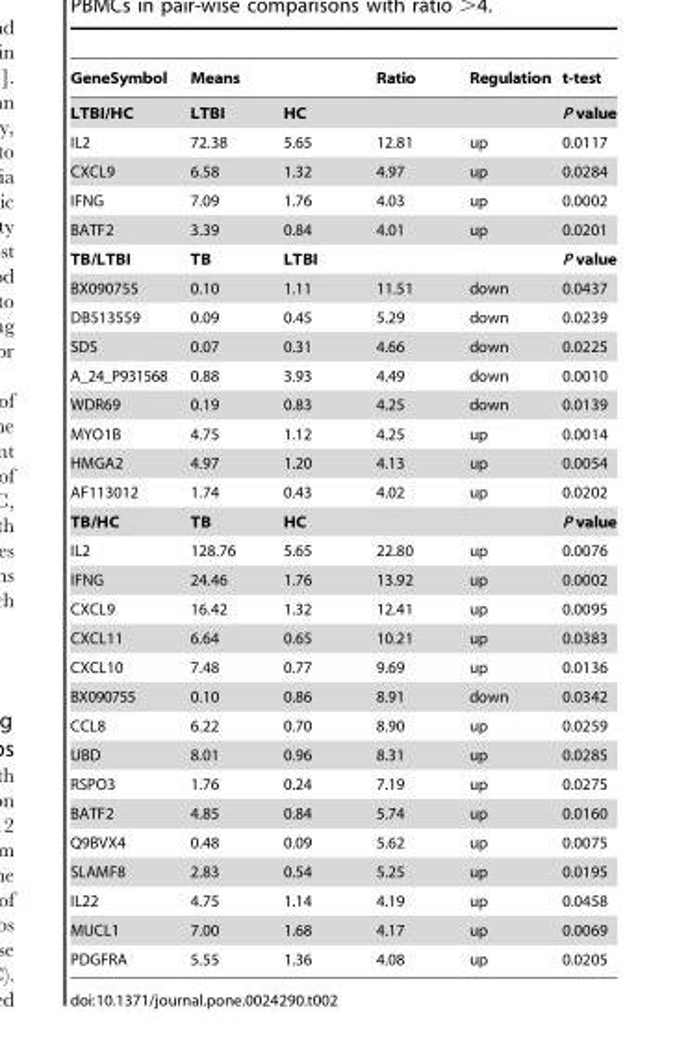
<table><thead><tr><td>GeneSymbol</td><td>Means</td><td></td><td>Ratio</td><td>Regulation</td><td>t-test</td></tr></thead><tbody><tr><td>LTBI/HC</td><td>LTBI</td><td>HC</td><td></td><td></td><td>P value</td></tr><tr><td>IL2</td><td>72.38</td><td>5.65</td><td>12.81</td><td>up</td><td>0.0117</td></tr><tr><td>CXCL9</td><td>6.58</td><td>1.32</td><td>4.97</td><td>up</td><td>0.0284</td></tr><tr><td>IFNG</td><td>7.09</td><td>1.76</td><td>4.03</td><td>up</td><td>0.0002</td></tr><tr><td>BATF2</td><td>3.39</td><td>0.84</td><td>4.01</td><td>up</td><td>0.0201</td></tr><tr><td>TB/LTBI</td><td>TB</td><td>LTBI</td><td></td><td></td><td>P value</td></tr><tr><td>BX090755</td><td>0.10</td><td>1.11</td><td>11.51</td><td>down</td><td>0.0437</td></tr><tr><td>DB513559</td><td>0.09</td><td>0.45</td><td>5.29</td><td>down</td><td>0.0239</td></tr><tr><td>SDS</td><td>0.07</td><td>0.31</td><td>4.66</td><td>down</td><td>0.0225</td></tr><tr><td>A_24_P931568</td><td>0.88</td><td>3.93</td><td>4.49</td><td>down</td><td>0.0010</td></tr><tr><td>WDR69</td><td>0.19</td><td>0.83</td><td>4.25</td><td>down</td><td>0.0139</td></tr><tr><td>MYO1B</td><td>4.75</td><td>1.12</td><td>4.25</td><td>up</td><td>0.0014</td></tr><tr><td>HMGA2</td><td>4.97</td><td>1.20</td><td>4.13</td><td>up</td><td>0.0054</td></tr><tr><td>AF113012</td><td>1.74</td><td>0.43</td><td>4.02</td><td>up</td><td>0.0202</td></tr><tr><td>TB/HC</td><td>TB</td><td>HC</td><td></td><td></td><td>P value</td></tr><tr><td>IL2</td><td>128.76</td><td>5.65</td><td>22.80</td><td>up</td><td>0.0076</td></tr><tr><td>IFNG</td><td>24.46</td><td>1.76</td><td>13.92</td><td>up</td><td>0.0002</td></tr><tr><td>CXCL9</td><td>16.42</td><td>1.32</td><td>12.41</td><td>up</td><td>0.0095</td></tr><tr><td>CXCL11</td><td>6.64</td><td>0.65</td><td>10.21</td><td>up</td><td>0.0383</td></tr><tr><td>CXCL10</td><td>7.48</td><td>0.77</td><td>9.69</td><td>up</td><td>0.0136</td></tr><tr><td>BX090755</td><td>0.10</td><td>0.86</td><td>8.91</td><td>down</td><td>0.0342</td></tr><tr><td>CCL8</td><td>6.22</td><td>0.70</td><td>8.90</td><td>up</td><td>0.0259</td></tr><tr><td>UBD</td><td>8.01</td><td>0.96</td><td>8.31</td><td>up</td><td>0.0285</td></tr><tr><td>RSPO3</td><td>1.76</td><td>0.24</td><td>7.19</td><td>up</td><td>0.0275</td></tr><tr><td>BATF2</td><td>4.85</td><td>0.84</td><td>5.74</td><td>up</td><td>0.0160</td></tr><tr><td>Q9BVX4</td><td>0.48</td><td>0.09</td><td>5.62</td><td>up</td><td>0.0075</td></tr><tr><td>SLAMF8</td><td>2.83</td><td>0.54</td><td>5.25</td><td>up</td><td>0.0195</td></tr><tr><td>IL22</td><td>4.75</td><td>1.14</td><td>4.19</td><td>up</td><td>0.0458</td></tr><tr><td>MUCL1</td><td>7.00</td><td>1.68</td><td>4.17</td><td>up</td><td>0.0069</td></tr><tr><td>PDGFRA</td><td>5.55</td><td>1.36</td><td>4.08</td><td>up</td><td>0.0205</td></tr></tbody></table>